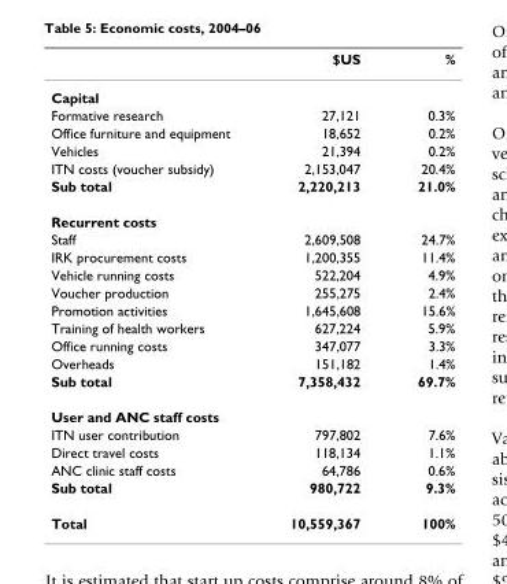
<table><thead><tr><td></td><td>$US</td><td>%</td></tr></thead><tbody><tr><td colspan="3">Capital</td></tr><tr><td>Formative research</td><td>27,121</td><td>0.3%</td></tr><tr><td>Office furniture and equipment</td><td>18,652</td><td>0.2%</td></tr><tr><td>Vehicles</td><td>21,394</td><td>0.2%</td></tr><tr><td>ITN costs (voucher subsidy)</td><td>2,153,047</td><td>20.4%</td></tr><tr><td>Sub total</td><td>2,220,213</td><td>21.0%</td></tr><tr><td colspan="3">Recurrent costs</td></tr><tr><td>Staff</td><td>2,609,508</td><td>24.7%</td></tr><tr><td>IRK procurement costs</td><td>1,200,355</td><td>11.4%</td></tr><tr><td>Vehicle running costs</td><td>522,204</td><td>4.9%</td></tr><tr><td>Voucher production</td><td>255,275</td><td>2.4%</td></tr><tr><td>Promotion activities</td><td>1,645,608</td><td>15.6%</td></tr><tr><td>Training of health workers</td><td>627,224</td><td>5.9%</td></tr><tr><td>Office running costs</td><td>347,077</td><td>3.3%</td></tr><tr><td>Overheads</td><td>151,182</td><td>1.4%</td></tr><tr><td>Sub total</td><td>7,358,432</td><td>69.7%</td></tr><tr><td colspan="3">User and ANC staff costs</td></tr><tr><td>ITN user contribution</td><td>797,802</td><td>7.6%</td></tr><tr><td>Direct travel costs</td><td>118,134</td><td>1.1%</td></tr><tr><td>ANC clinic staff costs</td><td>64,786</td><td>0.6%</td></tr><tr><td>Sub total</td><td>980,722</td><td>9.3%</td></tr><tr><td>Total</td><td>10,559,367</td><td>100%</td></tr></tbody></table>